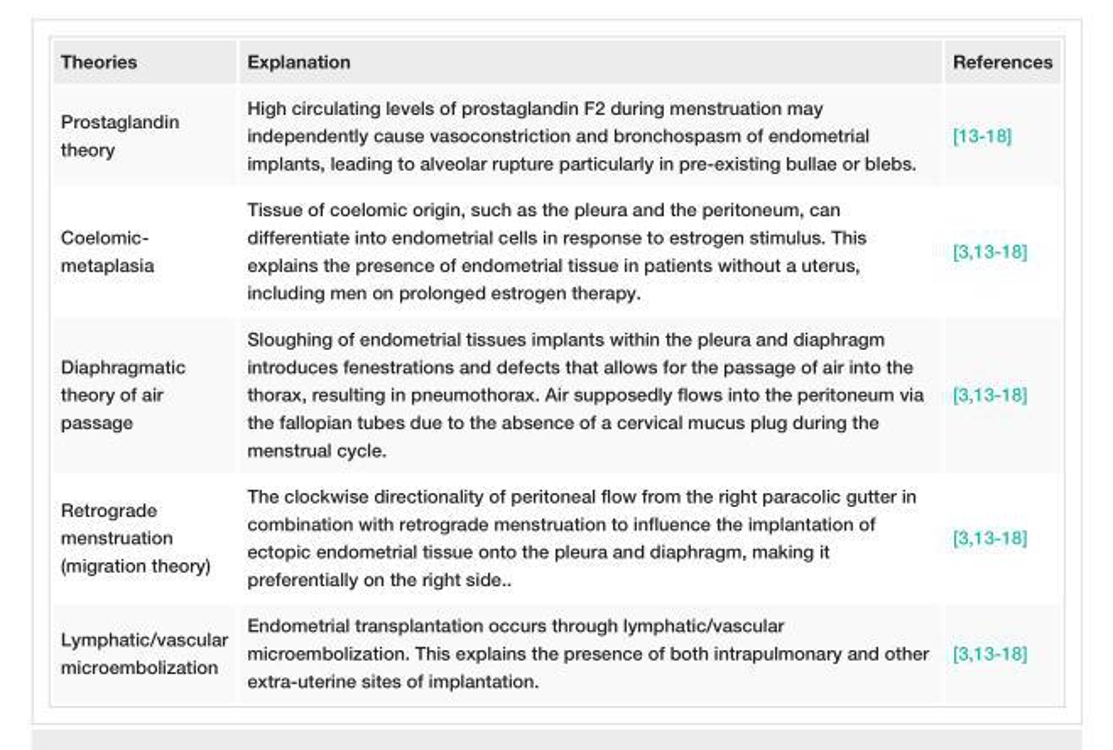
<table><tbody><tr><td>Theories</td><td>Explanation</td><td>References</td></tr><tr><td>Prostaglandin theory</td><td>High circulating levels of prostaglandin F2 during menstruation may independently cause vasoconstriction and bronchospasm of endometrial implants, leading to alveolar rupture particularly in pre-existing bullae or blebs.</td><td>[13-18]</td></tr><tr><td>Coelomic- metaplasia</td><td>Tissue of coelomic origin, such as the pleura and the peritoneum, can differentiate into endometrial cells in response to estrogen stimulus. This explains the presence of endometrial tissue in patients without a uterus, including men on prolonged estrogen therapy.</td><td>[3,13-18]</td></tr><tr><td>Diaphragmatic theory of air passage</td><td>Sloughing of endometrial tissues implants within the pleura and diaphragm introduces fenestrations and defects that allows for the passage of air into the thorax, resulting in pneumothorax. Air supposedly flows into the peritoneum via the fallopian tubes due to the absence of a cervical mucus plug during the menstrual cycle.</td><td>[3,13-18]</td></tr><tr><td>Retrograde menstruation (migration theory)</td><td>The clockwise directionality of peritoneal flow from the right paracolic gutter in combination with retrograde menstruation to influence the implantation of ectopic endometrial tissue onto the pleura and diaphragm, making it preferentially on the right side..</td><td>[3,13-18]</td></tr><tr><td>Lymphatic/vascular microembolization</td><td>Endometrial transplantation occurs through lymphatic/vascular microembolization. This explains the presence of both intrapulmonary and other extra-uterine sites of implantation.</td><td>[3,13-18]</td></tr></tbody></table>